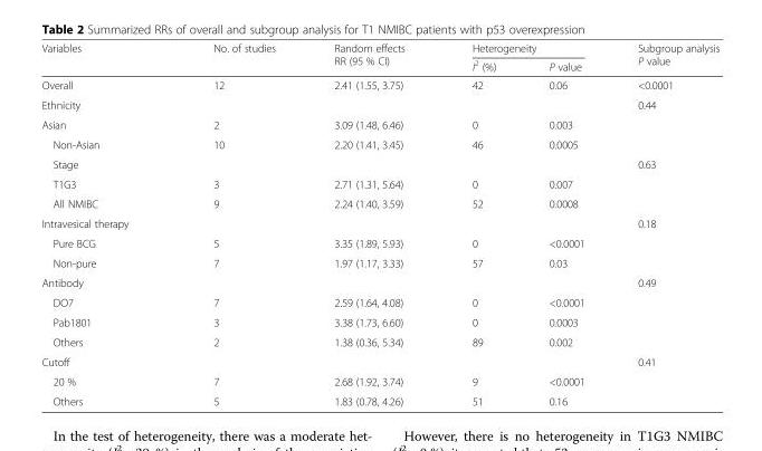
<table><thead><tr><td rowspan="2">Variables</td><td rowspan="2">No. of studies</td><td rowspan="2">Random effects RR (95 % CI)</td><td colspan="2">Heterogeneity</td><td rowspan="2">Subgroup analysis P value</td></tr><tr><td>I<sup>2</sup> (%)</td><td>P value</td></tr></thead><tbody><tr><td>Overall</td><td>12</td><td>2.41 (1.55, 3.75)</td><td>42</td><td>0.06</td><td>&lt;0.0001</td></tr><tr><td>Ethnicity</td><td></td><td></td><td></td><td></td><td>0.44</td></tr><tr><td>Asian</td><td>2</td><td>3.09 (1.48, 6.46)</td><td>0</td><td>0.003</td><td></td></tr><tr><td>Non-Asian</td><td>10</td><td>2.20 (1.41, 3.45)</td><td>46</td><td>0.0005</td><td></td></tr><tr><td>Stage</td><td></td><td></td><td></td><td></td><td>0.63</td></tr><tr><td>T1G3</td><td>3</td><td>2.71 (1.31, 5.64)</td><td>0</td><td>0.007</td><td></td></tr><tr><td>All NMIBC</td><td>9</td><td>2.24 (1.40, 3.59)</td><td>52</td><td>0.0008</td><td></td></tr><tr><td>Intravesical therapy</td><td></td><td></td><td></td><td></td><td>0.18</td></tr><tr><td>Pure BCG</td><td>5</td><td>3.35 (1.89, 5.93)</td><td>0</td><td>&lt;0.0001</td><td></td></tr><tr><td>Non-pure</td><td>7</td><td>1.97 (1.17, 3.33)</td><td>57</td><td>0.03</td><td></td></tr><tr><td>Antibody</td><td></td><td></td><td></td><td></td><td>0.49</td></tr><tr><td>DO7</td><td>7</td><td>2.59 (1.64, 4.08)</td><td>0</td><td>&lt;0.0001</td><td></td></tr><tr><td>Pab1801</td><td>3</td><td>3.38 (1.73, 6.60)</td><td>0</td><td>0.0003</td><td></td></tr><tr><td>Others</td><td>2</td><td>1.38 (0.36, 5.34)</td><td>89</td><td>0.002</td><td></td></tr><tr><td>Cutoff</td><td></td><td></td><td></td><td></td><td>0.41</td></tr><tr><td>20 %</td><td>7</td><td>2.68 (1.92, 3.74)</td><td>9</td><td>&lt;0.0001</td><td></td></tr><tr><td>Others</td><td>5</td><td>1.83 (0.78, 4.26)</td><td>51</td><td>0.16</td><td></td></tr></tbody></table>